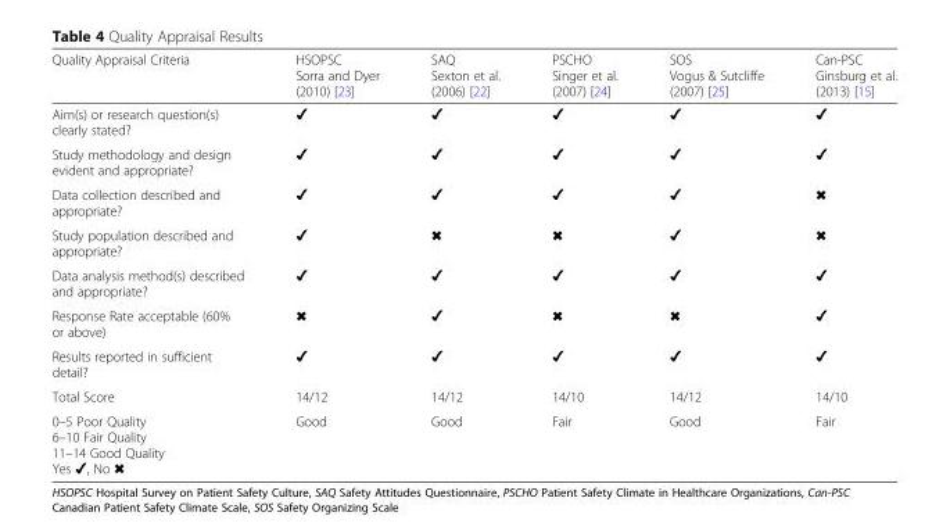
<table><thead><tr><td>Quality Appraisal Criteria</td><td>HSOPSC Sorra and Dyer (2010) [23]</td><td>SAQ Sexton et al. (2006) [22]</td><td>PSCHO Singer et al. (2007) [24]</td><td>SOS Vogus &amp; Sutcliffe (2007) [25]</td><td>Can-PSC Ginsburg et al. (2013) [15]</td></tr></thead><tbody><tr><td>Aim(s) or research question(s) clearly stated?</td><td>✔</td><td>✔</td><td>✔</td><td>✔</td><td>✔</td></tr><tr><td>Study methodology and design evident and appropriate?</td><td>✔</td><td>✔</td><td>✔</td><td>✔</td><td>✔</td></tr><tr><td>Data collection described and appropriate?</td><td>✔</td><td>✔</td><td>✔</td><td>✔</td><td>✖</td></tr><tr><td>Study population described and appropriate?</td><td>✔</td><td>✖</td><td>✖</td><td>✔</td><td>✖</td></tr><tr><td>Data analysis method(s) described and appropriate?</td><td>✔</td><td>✔</td><td>✔</td><td>✔</td><td>✔</td></tr><tr><td>Response Rate acceptable (60% or above)</td><td>✖</td><td>✔</td><td>✖</td><td>✖</td><td>✔</td></tr><tr><td>Results reported in sufficient detail?</td><td>✔</td><td>✔</td><td>✔</td><td>✔</td><td>✔</td></tr><tr><td>Total Score</td><td>14/12</td><td>14/12</td><td>14/10</td><td>14/12</td><td>14/10</td></tr><tr><td>0–5 Poor Quality 6–10 Fair Quality 11–14 Good Quality Yes ✔, No ✖</td><td>Good</td><td>Good</td><td>Fair</td><td>Good</td><td>Fair</td></tr></tbody></table>